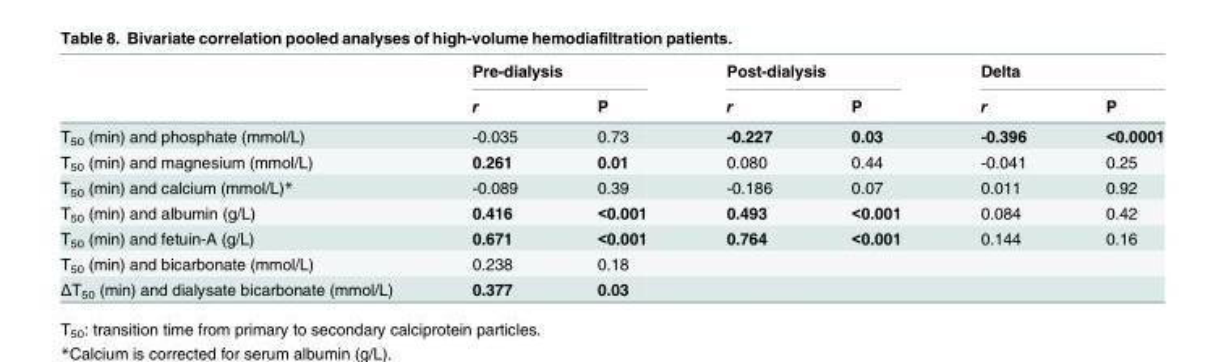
<table><thead><tr><td rowspan="2"></td><td colspan="2">Pre-dialysis</td><td colspan="2">Post-dialysis</td><td colspan="2">Delta</td></tr><tr><td>r</td><td>P</td><td>r</td><td>P</td><td>r</td><td>P</td></tr></thead><tbody><tr><td>T<sub>50</sub> (min) and phosphate (mmol/L)</td><td>-0.035</td><td>0.73</td><td>-0.227</td><td>0.03</td><td>-0.396</td><td>&lt;0.0001</td></tr><tr><td>T<sub>50</sub> (min) and magnesium (mmol/L)</td><td>0.261</td><td>0.01</td><td>0.080</td><td>0.44</td><td>-0.041</td><td>0.25</td></tr><tr><td>T<sub>50</sub> (min) and calcium (mmol/L)*</td><td>-0.089</td><td>0.39</td><td>-0.186</td><td>0.07</td><td>0.011</td><td>0.92</td></tr><tr><td>T<sub>50</sub> (min) and albumin (g/L)</td><td>0.416</td><td>&lt;0.001</td><td>0.493</td><td>&lt;0.001</td><td>0.084</td><td>0.42</td></tr><tr><td>T<sub>50</sub> (min) and fetuin-A (g/L)</td><td>0.671</td><td>&lt;0.001</td><td>0.764</td><td>&lt;0.001</td><td>0.144</td><td>0.16</td></tr><tr><td>T<sub>50</sub> (min) and bicarbonate (mmol/L)</td><td>0.238</td><td>0.18</td><td></td><td></td><td></td><td></td></tr><tr><td>ΔT<sub>50</sub> (min) and dialysate bicarbonate (mmol/L)</td><td>0.377</td><td>0.03</td><td></td><td></td><td></td><td></td></tr></tbody></table>